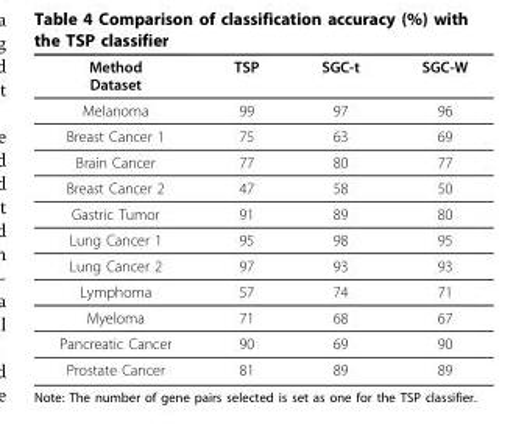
<table><thead><tr><td>Method Dataset</td><td>TSP</td><td>SGC-t</td><td>SGC-W</td></tr></thead><tbody><tr><td>Melanoma</td><td>99</td><td>97</td><td>96</td></tr><tr><td>Breast Cancer 1</td><td>75</td><td>63</td><td>69</td></tr><tr><td>Brain Cancer</td><td>77</td><td>80</td><td>77</td></tr><tr><td>Breast Cancer 2</td><td>47</td><td>58</td><td>50</td></tr><tr><td>Gastric Tumor</td><td>91</td><td>89</td><td>80</td></tr><tr><td>Lung Cancer 1</td><td>95</td><td>98</td><td>95</td></tr><tr><td>Lung Cancer 2</td><td>97</td><td>93</td><td>93</td></tr><tr><td>Lymphoma</td><td>57</td><td>74</td><td>71</td></tr><tr><td>Myeloma</td><td>71</td><td>68</td><td>67</td></tr><tr><td>Pancreatic Cancer</td><td>90</td><td>69</td><td>90</td></tr><tr><td>Prostate Cancer</td><td>81</td><td>89</td><td>89</td></tr></tbody></table>